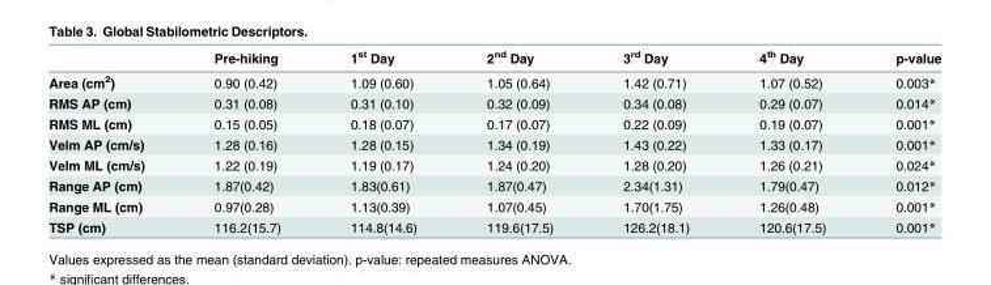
<table><thead><tr><td></td><td>Pre-hiking</td><td>1<sup>st</sup> Day</td><td>2<sup>nd</sup> Day</td><td>3<sup>rd</sup> Day</td><td>4<sup>th</sup> Day</td><td>p-value</td></tr></thead><tbody><tr><td>Area (cm<sup>2</sup>)</td><td>0.90 (0.42)</td><td>1.09 (0.60)</td><td>1.05 (0.64)</td><td>1.42 (0.71)</td><td>1.07 (0.52)</td><td>0.003*</td></tr><tr><td>RMS AP (cm)</td><td>0.31 (0.08)</td><td>0.31 (0.10)</td><td>0.32 (0.09)</td><td>0.34 (0.08)</td><td>0.29 (0.07)</td><td>0.014*</td></tr><tr><td>RMS ML (cm)</td><td>0.15 (0.05)</td><td>0.18 (0.07)</td><td>0.17 (0.07)</td><td>0.22 (0.09)</td><td>0.19 (0.07)</td><td>0.001*</td></tr><tr><td>Velm AP (cm/s)</td><td>1.28 (0.16)</td><td>1.28 (0.15)</td><td>1.34 (0.19)</td><td>1.43 (0.22)</td><td>1.33 (0.17)</td><td>0.001*</td></tr><tr><td>Velm ML (cm/s)</td><td>1.22 (0.19)</td><td>1.19 (0.17)</td><td>1.24 (0.20)</td><td>1.28 (0.20)</td><td>1.26 (0.21)</td><td>0.024*</td></tr><tr><td>Range AP (cm)</td><td>1.87(0.42)</td><td>1.83(0.61)</td><td>1.87(0.47)</td><td>2.34(1.31)</td><td>1.79(0.47)</td><td>0.012*</td></tr><tr><td>Range ML (cm)</td><td>0.97(0.28)</td><td>1.13(0.39)</td><td>1.07(0.45)</td><td>1.70(1.75)</td><td>1.26(0.48)</td><td>0.001*</td></tr><tr><td>TSP (cm)</td><td>116.2(15.7)</td><td>114.8(14.6)</td><td>119.6(17.5)</td><td>126.2(18.1)</td><td>120.6(17.5)</td><td>0.001*</td></tr></tbody></table>